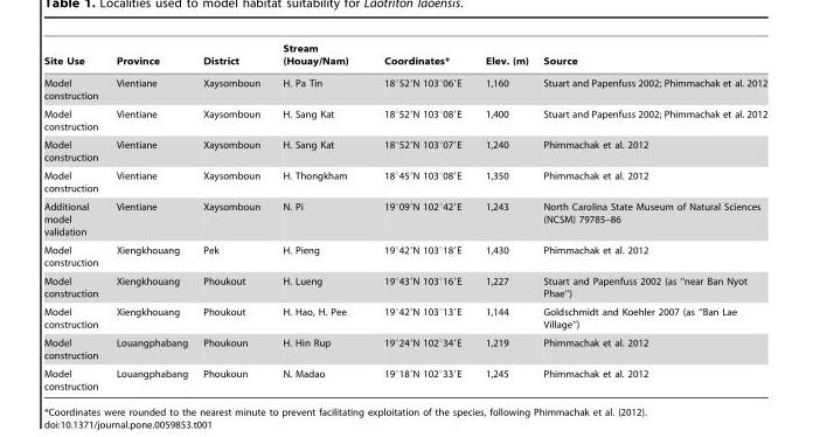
<table><thead><tr><td>Site Use</td><td>Province</td><td>District</td><td>Stream (Houay/Nam)</td><td>Coordinates*</td><td>Elev. (m)</td><td>Source</td></tr></thead><tbody><tr><td>Model construction</td><td>Vientiane</td><td>Xaysomboun</td><td>H. Pa Tin</td><td>18°52′N 103°06′E</td><td>1,160</td><td>Stuart and Papenfuss 2002; Phimmachak et al. 2012</td></tr><tr><td>Model construction</td><td>Vientiane</td><td>Xaysomboun</td><td>H. Sang Kat</td><td>18°52′N 103°08′E</td><td>1,400</td><td>Stuart and Papenfuss 2002; Phimmachak et al. 2012</td></tr><tr><td>Model construction</td><td>Vientiane</td><td>Xaysomboun</td><td>H. Sang Kat</td><td>18°52′N 103°07′E</td><td>1,240</td><td>Phimmachak et al. 2012</td></tr><tr><td>Model construction</td><td>Vientiane</td><td>Xaysomboun</td><td>H. Thongkham</td><td>18°45′N 103°08′E</td><td>1,350</td><td>Phimmachak et al. 2012</td></tr><tr><td>Additional model validation</td><td>Vientiane</td><td>Xaysomboun</td><td>N. Pi</td><td>19°09′N 102°42′E</td><td>1,243</td><td>North Carolina State Museum of Natural Sciences (NCSM) 79785–86</td></tr><tr><td>Model construction</td><td>Xiengkhouang</td><td>Pek</td><td>H. Pieng</td><td>19°42′N 103°18′E</td><td>1,430</td><td>Phimmachak et al. 2012</td></tr><tr><td>Model construction</td><td>Xiengkhouang</td><td>Phoukout</td><td>H. Lueng</td><td>19°43′N 103°16′E</td><td>1,227</td><td>Stuart and Papenfuss 2002 (as ‘‘near Ban Nyot Phae’’)</td></tr><tr><td>Model construction</td><td>Xiengkhouang</td><td>Phoukout</td><td>H. Hao, H. Pee</td><td>19°42′N 103°13′E</td><td>1,144</td><td>Goldschmidt and Koehler 2007 (as ‘‘Ban Lae Village’’)</td></tr><tr><td>Model construction</td><td>Louangphabang</td><td>Phoukoun</td><td>H. Hin Rup</td><td>19°24′N 102°34′E</td><td>1,219</td><td>Phimmachak et al. 2012</td></tr><tr><td>Model construction</td><td>Louangphabang</td><td>Phoukoun</td><td>N. Madao</td><td>19°18′N 102°33′E</td><td>1,245</td><td>Phimmachak et al. 2012</td></tr></tbody></table>